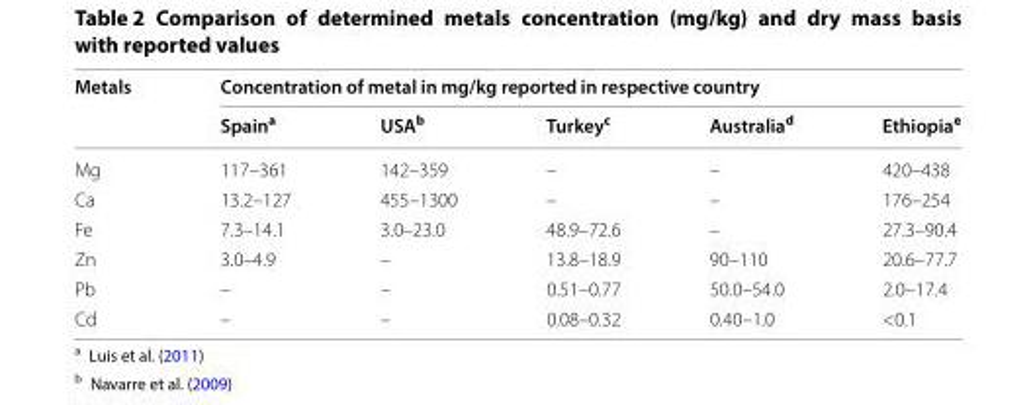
<table><thead><tr><td rowspan="2">Metals</td><td colspan="5">Concentration of metal in mg/kg reported in respective country</td></tr><tr><td>Spain<sup>a</sup></td><td>USA<sup>b</sup></td><td>Turkey<sup>c</sup></td><td>Australia<sup>d</sup></td><td>Ethiopia<sup>e</sup></td></tr></thead><tbody><tr><td>Mg</td><td>117–361</td><td>142–359</td><td>–</td><td>–</td><td>420–438</td></tr><tr><td>Ca</td><td>13.2–127</td><td>455–1300</td><td>–</td><td>–</td><td>176–254</td></tr><tr><td>Fe</td><td>7.3–14.1</td><td>3.0–23.0</td><td>48.9–72.6</td><td>–</td><td>27.3–90.4</td></tr><tr><td>Zn</td><td>3.0–4.9</td><td>–</td><td>13.8–18.9</td><td>90–110</td><td>20.6–77.7</td></tr><tr><td>Pb</td><td>–</td><td>–</td><td>0.51–0.77</td><td>50.0–54.0</td><td>2.0–17.4</td></tr><tr><td>Cd</td><td>–</td><td>–</td><td>0.08–0.32</td><td>0.40–1.0</td><td>&lt;0.1</td></tr></tbody></table>